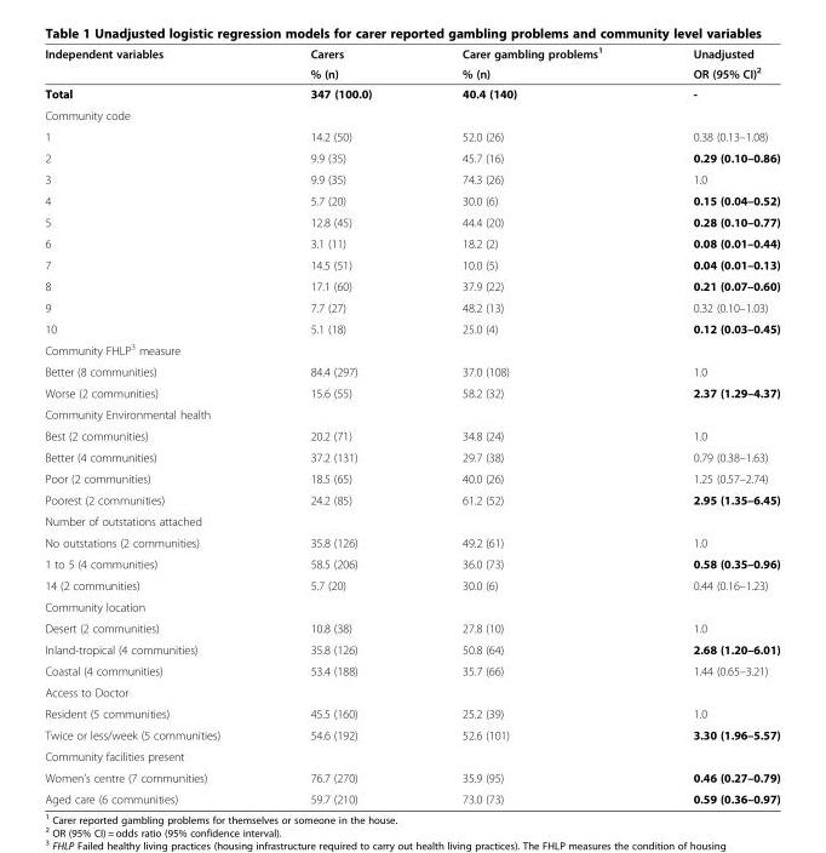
<table><thead><tr><td rowspan="2">Independent variables</td><td rowspan="2">Carers % (n)</td><td rowspan="2">Carer gambling problems<sup>1</sup> % (n)</td><td rowspan="2">Unadjusted OR (95% CI)<sup>2</sup></td></tr><tr></tr></thead><tbody><tr><td>Total</td><td>347 (100.0)</td><td>40.4 (140)</td><td>-</td></tr><tr><td colspan="4">Community code</td></tr><tr><td>1</td><td>14.2 (50)</td><td>52.0 (26)</td><td>0.38 (0.13–1.08)</td></tr><tr><td>2</td><td>9.9 (35)</td><td>45.7 (16)</td><td>0.29 (0.10–0.86)</td></tr><tr><td>3</td><td>9.9 (35)</td><td>74.3 (26)</td><td>1.0</td></tr><tr><td>4</td><td>5.7 (20)</td><td>30.0 (6)</td><td>0.15 (0.04–0.52)</td></tr><tr><td>5</td><td>12.8 (45)</td><td>44.4 (20)</td><td>0.28 (0.10–0.77)</td></tr><tr><td>6</td><td>3.1 (11)</td><td>18.2 (2)</td><td>0.08 (0.01–0.44)</td></tr><tr><td>7</td><td>14.5 (51)</td><td>10.0 (5)</td><td>0.04 (0.01–0.13)</td></tr><tr><td>8</td><td>17.1 (60)</td><td>37.9 (22)</td><td>0.21 (0.07–0.60)</td></tr><tr><td>9</td><td>7.7 (27)</td><td>48.2 (13)</td><td>0.32 (0.10–1.03)</td></tr><tr><td>10</td><td>5.1 (18)</td><td>25.0 (4)</td><td>0.12 (0.03–0.45)</td></tr><tr><td colspan="4">Community FHLP<sup>3</sup> measure</td></tr><tr><td>Better (8 communities)</td><td>84.4 (297)</td><td>37.0 (108)</td><td>1.0</td></tr><tr><td>Worse (2 communities)</td><td>15.6 (55)</td><td>58.2 (32)</td><td>2.37 (1.29–4.37)</td></tr><tr><td colspan="4">Community Environmental health</td></tr><tr><td>Best (2 communities)</td><td>20.2 (71)</td><td>34.8 (24)</td><td>1.0</td></tr><tr><td>Better (4 communities)</td><td>37.2 (131)</td><td>29.7 (38)</td><td>0.79 (0.38–1.63)</td></tr><tr><td>Poor (2 communities)</td><td>18.5 (65)</td><td>40.0 (26)</td><td>1.25 (0.57–2.74)</td></tr><tr><td>Poorest (2 communities)</td><td>24.2 (85)</td><td>61.2 (52)</td><td>2.95 (1.35–6.45)</td></tr><tr><td colspan="4">Number of outstations attached</td></tr><tr><td>No outstations (2 communities)</td><td>35.8 (126)</td><td>49.2 (61)</td><td>1.0</td></tr><tr><td>1 to 5 (4 communities)</td><td>58.5 (206)</td><td>36.0 (73)</td><td>0.58 (0.35–0.96)</td></tr><tr><td>14 (2 communities)</td><td>5.7 (20)</td><td>30.0 (6)</td><td>0.44 (0.16–1.23)</td></tr><tr><td colspan="4">Community location</td></tr><tr><td>Desert (2 communities)</td><td>10.8 (38)</td><td>27.8 (10)</td><td>1.0</td></tr><tr><td>Inland-tropical (4 communities)</td><td>35.8 (126)</td><td>50.8 (64)</td><td>2.68 (1.20–6.01)</td></tr><tr><td>Coastal (4 communities)</td><td>53.4 (188)</td><td>35.7 (66)</td><td>1.44 (0.65–3.21)</td></tr><tr><td colspan="4">Access to Doctor</td></tr><tr><td>Resident (5 communities)</td><td>45.5 (160)</td><td>25.2 (39)</td><td>1.0</td></tr><tr><td>Twice or less/week (5 communities)</td><td>54.6 (192)</td><td>52.6 (101)</td><td>3.30 (1.96–5.57)</td></tr><tr><td colspan="4">Community facilities present</td></tr><tr><td>Women’s centre (7 communities)</td><td>76.7 (270)</td><td>35.9 (95)</td><td>0.46 (0.27–0.79)</td></tr><tr><td>Aged care (6 communities)</td><td>59.7 (210)</td><td>73.0 (73)</td><td>0.59 (0.36–0.97)</td></tr></tbody></table>